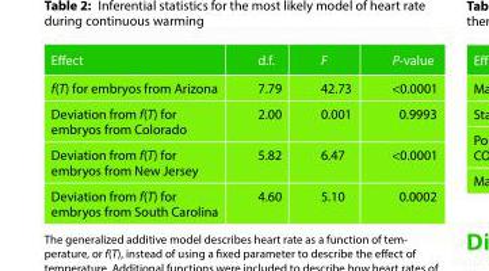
<table><thead><tr><td>Effect</td><td>d.f.</td><td>F</td><td>P-value</td></tr></thead><tbody><tr><td>f(T) for embryos from Arizona</td><td>7.79</td><td>42.73</td><td>&lt;0.0001</td></tr><tr><td>Deviation from f(T) for embryos from Colorado</td><td>2.00</td><td>0.001</td><td>0.9993</td></tr><tr><td>Deviation from f(T) for embryos from New Jersey</td><td>5.82</td><td>6.47</td><td>&lt;0.0001</td></tr><tr><td>Deviation from f(T) for embryos from South Carolina</td><td>4.60</td><td>5.10</td><td>0.0002</td></tr></tbody></table>